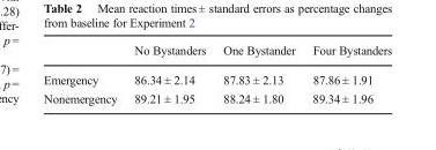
<table><thead><tr><td></td><td>No Bystanders</td><td>One Bystander</td><td>Four Bystanders</td></tr></thead><tbody><tr><td>Emergency</td><td>86.34 ± 2.14</td><td>87.83 ± 2.13</td><td>87.86 ± 1.91</td></tr><tr><td>Nonemergency</td><td>89.21 ± 1.95</td><td>88.24 ± 1.80</td><td>89.34 ± 1.96</td></tr></tbody></table>